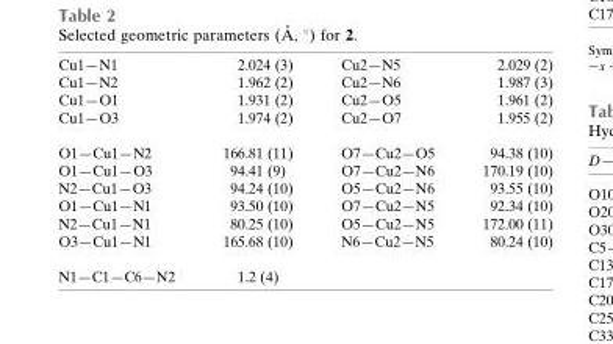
<table><tbody><tr><td>Cu1—N1</td><td>2.024 (3)</td><td>Cu2—N5</td><td>2.029 (2)</td></tr><tr><td>Cu1—N2</td><td>1.962 (2)</td><td>Cu2—N6</td><td>1.987 (3)</td></tr><tr><td>Cu1—O1</td><td>1.931 (2)</td><td>Cu2—O5</td><td>1.961 (2)</td></tr><tr><td>Cu1—O3</td><td>1.974 (2)</td><td>Cu2—O7</td><td>1.955 (2)</td></tr><tr><td>O1—Cu1—N2</td><td>166.81 (11)</td><td>O7—Cu2—O5</td><td>94.38 (10)</td></tr><tr><td>O1—Cu1—O3</td><td>94.41 (9)</td><td>O7—Cu2—N6</td><td>170.19 (10)</td></tr><tr><td>N2—Cu1—O3</td><td>94.24 (10)</td><td>O5—Cu2—N6</td><td>93.55 (10)</td></tr><tr><td>O1—Cu1—N1</td><td>93.50 (10)</td><td>O7—Cu2—N5</td><td>92.34 (10)</td></tr><tr><td>N2—Cu1—N1</td><td>80.25 (10)</td><td>O5—Cu2—N5</td><td>172.00 (11)</td></tr><tr><td>O3—Cu1—N1</td><td>165.68 (10)</td><td>N6—Cu2—N5</td><td>80.24 (10)</td></tr><tr><td>N1—C1—C6—N2</td><td>1.2 (4)</td><td></td><td></td></tr></tbody></table>